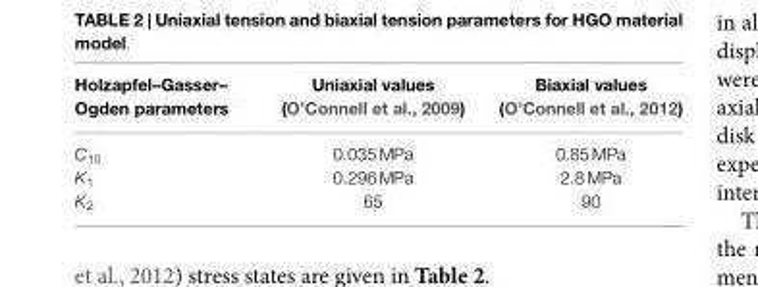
<table><thead><tr><td>Holzapfel–Gasser– Ogden parameters</td><td>Uniaxial values (O’Connell et al., 2009)</td><td>Biaxial values (O’Connell et al., 2012)</td></tr></thead><tbody><tr><td>C<sub>10</sub></td><td>0.035 MPa</td><td>0.85 MPa</td></tr><tr><td>K<sub>1</sub></td><td>0.296 MPa</td><td>2.8 MPa</td></tr><tr><td>K<sub>2</sub></td><td>65</td><td>90</td></tr></tbody></table>